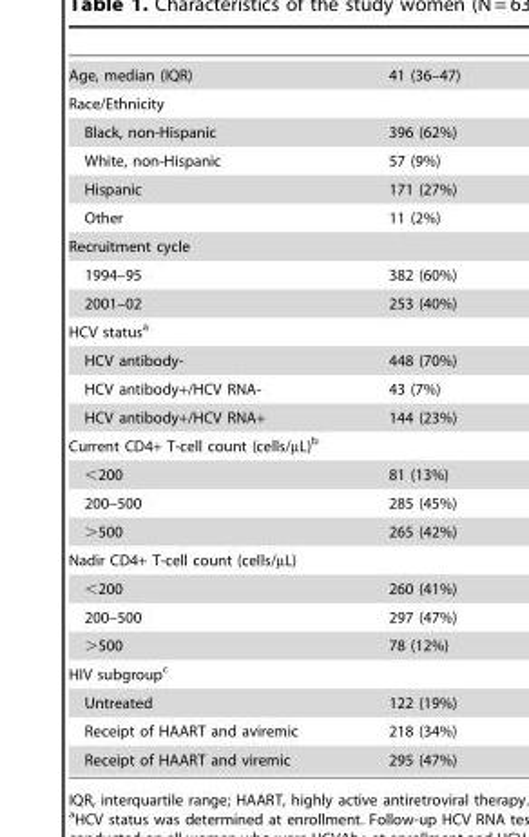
<table><tbody><tr><td>Age, median (IQR)</td><td>41 (36–47)</td></tr><tr><td colspan="2">Race/Ethnicity</td></tr><tr><td>Black, non-Hispanic</td><td>396 (62%)</td></tr><tr><td>White, non-Hispanic</td><td>57 (9%)</td></tr><tr><td>Hispanic</td><td>171 (27%)</td></tr><tr><td>Other</td><td>11 (2%)</td></tr><tr><td colspan="2">Recruitment cycle</td></tr><tr><td>1994–95</td><td>382 (60%)</td></tr><tr><td>2001–02</td><td>253 (40%)</td></tr><tr><td colspan="2">HCV status<sup>a</sup></td></tr><tr><td>HCV antibody-</td><td>448 (70%)</td></tr><tr><td>HCV antibody+/HCV RNA-</td><td>43 (7%)</td></tr><tr><td>HCV antibody+/HCV RNA+</td><td>144 (23%)</td></tr><tr><td colspan="2">Current CD4+ T-cell count (cells/µL)<sup>b</sup></td></tr><tr><td>&lt;200</td><td>81 (13%)</td></tr><tr><td>200–500</td><td>285 (45%)</td></tr><tr><td>&gt;500</td><td>265 (42%)</td></tr><tr><td colspan="2">Nadir CD4+ T-cell count (cells/µL)</td></tr><tr><td>&lt;200</td><td>260 (41%)</td></tr><tr><td>200–500</td><td>297 (47%)</td></tr><tr><td>&gt;500</td><td>78 (12%)</td></tr><tr><td colspan="2">HIV subgroup<sup>c</sup></td></tr><tr><td>Untreated</td><td>122 (19%)</td></tr><tr><td>Receipt of HAART and aviremic</td><td>218 (34%)</td></tr><tr><td>Receipt of HAART and viremic</td><td>295 (47%)</td></tr></tbody></table>